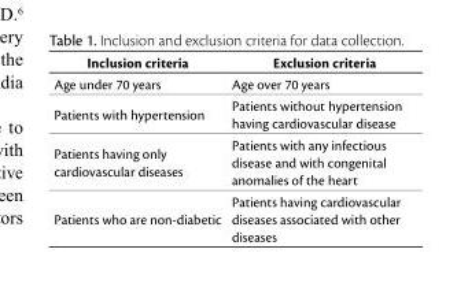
<table><thead><tr><td>Inclusion criteria</td><td>Exclusion criteria</td></tr></thead><tbody><tr><td>Age under 70 years</td><td>Age over 70 years</td></tr><tr><td>Patients with hypertension</td><td>Patients without hypertension having cardiovascular disease</td></tr><tr><td>Patients having only cardiovascular diseases</td><td>Patients with any infectious disease and with congenital anomalies of the heart</td></tr><tr><td>Patients who are non-diabetic</td><td>Patients having cardiovascular diseases associated with other diseases</td></tr></tbody></table>